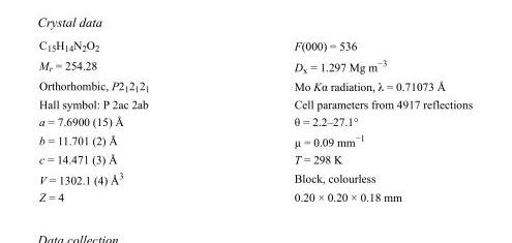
<table><tbody><tr><td>C<sub>15</sub>H<sub>14</sub>N<sub>2</sub>O<sub>2</sub></td><td>F(000) = 536</td></tr><tr><td>M<sub>r</sub> = 254.28</td><td>D<sub>x</sub> = 1.297 Mg m<sup>−3</sup></td></tr><tr><td>Orthorhombic, P2<sub>1</sub>2<sub>1</sub>2<sub>1</sub></td><td>Mo Kα radiation, λ = 0.71073 Å</td></tr><tr><td>Hall symbol: P 2ac 2ab</td><td>Cell parameters from 4917 reflections</td></tr><tr><td>a = 7.6900 (15) Å</td><td>θ = 2.2–27.1°</td></tr><tr><td>b = 11.701 (2) Å</td><td>µ = 0.09 mm<sup>−1</sup></td></tr><tr><td>c = 14.471 (3) Å</td><td>T = 298 K</td></tr><tr><td>V = 1302.1 (4) Å<sup>3</sup></td><td>Block, colourless</td></tr><tr><td>Z = 4</td><td>0.20 × 0.20 × 0.18 mm</td></tr></tbody></table>